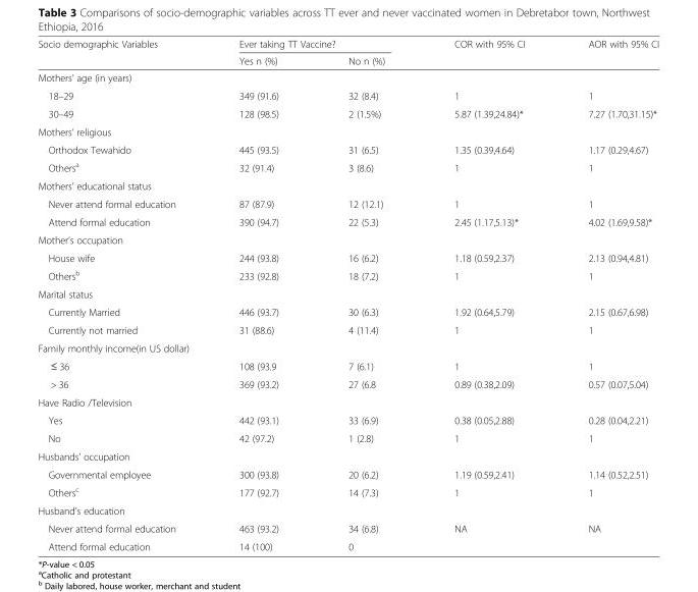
<table><thead><tr><td rowspan="2">Socio demographic Variables</td><td colspan="2">Ever taking TT Vaccine?</td><td rowspan="2">COR with 95% CI</td><td rowspan="2">AOR with 95% CI</td></tr><tr><td>Yes n (%)</td><td>No n (%)</td></tr></thead><tbody><tr><td colspan="5">Mothers’ age (in years)</td></tr><tr><td>18–29</td><td>349 (91.6)</td><td>32 (8.4)</td><td>1</td><td>1</td></tr><tr><td>30–49</td><td>128 (98.5)</td><td>2 (1.5%)</td><td>5.87 (1.39,24.84)*</td><td>7.27 (1.70,31.15)*</td></tr><tr><td colspan="5">Mothers’ religious</td></tr><tr><td>Orthodox Tewahido</td><td>445 (93.5)</td><td>31 (6.5)</td><td>1.35 (0.39,4.64)</td><td>1.17 (0.29,4.67)</td></tr><tr><td>Others<sup>a</sup></td><td>32 (91.4)</td><td>3 (8.6)</td><td>1</td><td>1</td></tr><tr><td colspan="5">Mothers’ educational status</td></tr><tr><td>Never attend formal education</td><td>87 (87.9)</td><td>12 (12.1)</td><td>1</td><td>1</td></tr><tr><td>Attend formal education</td><td>390 (94.7)</td><td>22 (5.3)</td><td>2.45 (1.17,5.13)*</td><td>4.02 (1.69,9.58)*</td></tr><tr><td colspan="5">Mother’s occupation</td></tr><tr><td>House wife</td><td>244 (93.8)</td><td>16 (6.2)</td><td>1.18 (0.59,2.37)</td><td>2.13 (0.94,4.81)</td></tr><tr><td>Others<sup>b</sup></td><td>233 (92.8)</td><td>18 (7.2)</td><td>1</td><td>1</td></tr><tr><td colspan="5">Marital status</td></tr><tr><td>Currently Married</td><td>446 (93.7)</td><td>30 (6.3)</td><td>1.92 (0.64,5.79)</td><td>2.15 (0.67,6.98)</td></tr><tr><td>Currently not married</td><td>31 (88.6)</td><td>4 (11.4)</td><td>1</td><td>1</td></tr><tr><td colspan="5">Family monthly income(in US dollar)</td></tr><tr><td>≤ 36</td><td>108 (93.9</td><td>7 (6.1)</td><td>1</td><td>1</td></tr><tr><td>&gt; 36</td><td>369 (93.2)</td><td>27 (6.8</td><td>0.89 (0.38,2.09)</td><td>0.57 (0.07,5.04)</td></tr><tr><td colspan="5">Have Radio /Television</td></tr><tr><td>Yes</td><td>442 (93.1)</td><td>33 (6.9)</td><td>0.38 (0.05,2.88)</td><td>0.28 (0.04,2.21)</td></tr><tr><td>No</td><td>42 (97.2)</td><td>1 (2.8)</td><td>1</td><td>1</td></tr><tr><td colspan="5">Husbands’ occupation</td></tr><tr><td>Governmental employee</td><td>300 (93.8)</td><td>20 (6.2)</td><td>1.19 (0.59,2.41)</td><td>1.14 (0.52,2.51)</td></tr><tr><td>Others<sup>c</sup></td><td>177 (92.7)</td><td>14 (7.3)</td><td>1</td><td>1</td></tr><tr><td colspan="5">Husband’s education</td></tr><tr><td>Never attend formal education</td><td>463 (93.2)</td><td>34 (6.8)</td><td>NA</td><td>NA</td></tr><tr><td>Attend formal education</td><td>14 (100)</td><td>0</td><td></td><td></td></tr></tbody></table>